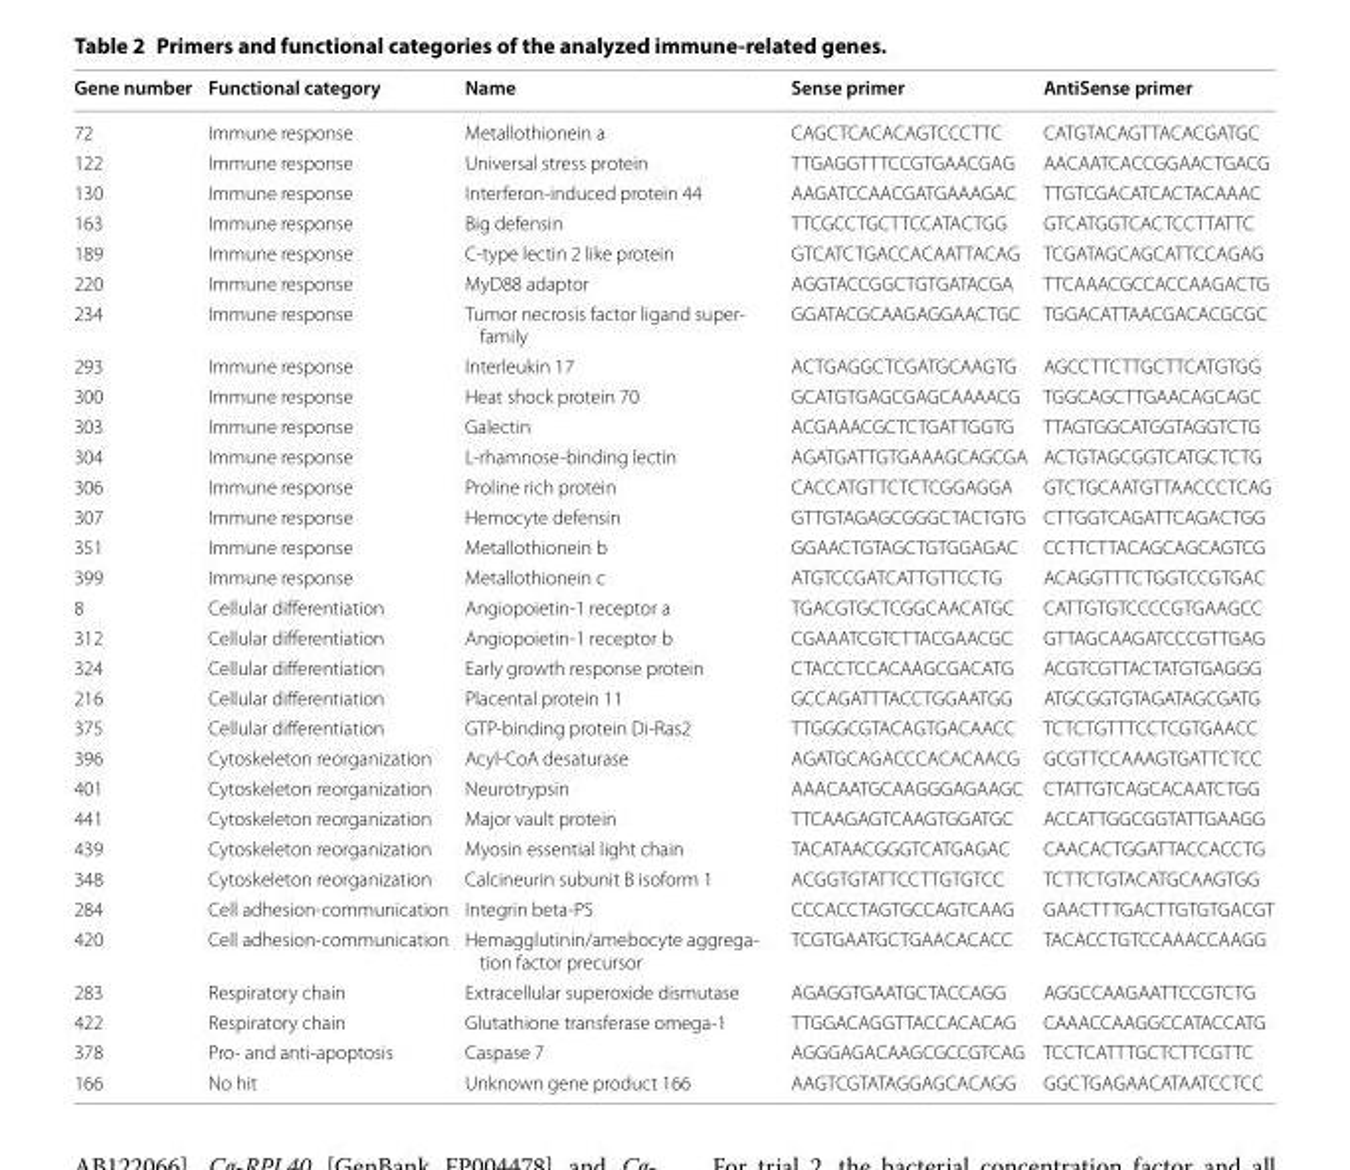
<table><thead><tr><td>Gene number</td><td>Functional category</td><td>Name</td><td>Sense primer</td><td>AntiSense primer</td></tr></thead><tbody><tr><td>72</td><td>Immune response</td><td>Metallothionein a</td><td>CAGCTCACACAGTCCCTTC</td><td>CATGTACAGTTACACGATGC</td></tr><tr><td>122</td><td>Immune response</td><td>Universal stress protein</td><td>TTGAGGTTTCCGTGAACGAG</td><td>AACAATCACCGGAACTGACG</td></tr><tr><td>130</td><td>Immune response</td><td>Interferon‑induced protein 44</td><td>AAGATCCAACGATGAAAGAC</td><td>TTGTCGACATCACTACAAAC</td></tr><tr><td>163</td><td>Immune response</td><td>Big defensin</td><td>TTCGCCTGCTTCCATACTGG</td><td>GTCATGGTCACTCCTTATTC</td></tr><tr><td>189</td><td>Immune response</td><td>C‑type lectin 2 like protein</td><td>GTCATCTGACCACAATTACAG</td><td>TCGATAGCAGCATTCCAGAG</td></tr><tr><td>220</td><td>Immune response</td><td>MyD88 adaptor</td><td>AGGTACCGGCTGTGATACGA</td><td>TTCAAACGCCACCAAGACTG</td></tr><tr><td>234</td><td>Immune response</td><td>Tumor necrosis factor ligand super‑ family</td><td>GGATACGCAAGAGGAACTGC</td><td>TGGACATTAACGACACGCGC</td></tr><tr><td>293</td><td>Immune response</td><td>Interleukin 17</td><td>ACTGAGGCTCGATGCAAGTG</td><td>AGCCTTCTTGCTTCATGTGG</td></tr><tr><td>300</td><td>Immune response</td><td>Heat shock protein 70</td><td>GCATGTGAGCGAGCAAAACG</td><td>TGGCAGCTTGAACAGCAGC</td></tr><tr><td>303</td><td>Immune response</td><td>Galectin</td><td>ACGAAACGCTCTGATTGGTG</td><td>TTAGTGGCATGGTAGGTCTG</td></tr><tr><td>304</td><td>Immune response</td><td>L‑rhamnose‑binding lectin</td><td>AGATGATTGTGAAAGCAGCGA</td><td>ACTGTAGCGGTCATGCTCTG</td></tr><tr><td>306</td><td>Immune response</td><td>Proline rich protein</td><td>CACCATGTTCTCTCGGAGGA</td><td>GTCTGCAATGTTAACCCTCAG</td></tr><tr><td>307</td><td>Immune response</td><td>Hemocyte defensin</td><td>GTTGTAGAGCGGGCTACTGTG</td><td>CTTGGTCAGATTCAGACTGG</td></tr><tr><td>351</td><td>Immune response</td><td>Metallothionein b</td><td>GGAACTGTAGCTGTGGAGAC</td><td>CCTTCTTACAGCAGCAGTCG</td></tr><tr><td>399</td><td>Immune response</td><td>Metallothionein c</td><td>ATGTCCGATCATTGTTCCTG</td><td>ACAGGTTTCTGGTCCGTGAC</td></tr><tr><td>8</td><td>Cellular differentiation</td><td>Angiopoietin‑1 receptor a</td><td>TGACGTGCTCGGCAACATGC</td><td>CATTGTGTCCCCGTGAAGCC</td></tr><tr><td>312</td><td>Cellular differentiation</td><td>Angiopoietin‑1 receptor b</td><td>CGAAATCGTCTTACGAACGC</td><td>GTTAGCAAGATCCCGTTGAG</td></tr><tr><td>324</td><td>Cellular differentiation</td><td>Early growth response protein</td><td>CTACCTCCACAAGCGACATG</td><td>ACGTCGTTACTATGTGAGGG</td></tr><tr><td>216</td><td>Cellular differentiation</td><td>Placental protein 11</td><td>GCCAGATTTACCTGGAATGG</td><td>ATGCGGTGTAGATAGCGATG</td></tr><tr><td>375</td><td>Cellular differentiation</td><td>GTP‑binding protein Di‑Ras2</td><td>TTGGGCGTACAGTGACAACC</td><td>TCTCTGTTTCCTCGTGAACC</td></tr><tr><td>396</td><td>Cytoskeleton reorganization</td><td>Acyl‑CoA desaturase</td><td>AGATGCAGACCCACACAACG</td><td>GCGTTCCAAAGTGATTCTCC</td></tr><tr><td>401</td><td>Cytoskeleton reorganization</td><td>Neurotrypsin</td><td>AAACAATGCAAGGGAGAAGC</td><td>CTATTGTCAGCACAATCTGG</td></tr><tr><td>441</td><td>Cytoskeleton reorganization</td><td>Major vault protein</td><td>TTCAAGAGTCAAGTGGATGC</td><td>ACCATTGGCGGTATTGAAGG</td></tr><tr><td>439</td><td>Cytoskeleton reorganization</td><td>Myosin essential light chain</td><td>TACATAACGGGTCATGAGAC</td><td>CAACACTGGATTACCACCTG</td></tr><tr><td>348</td><td>Cytoskeleton reorganization</td><td>Calcineurin subunit B isoform 1</td><td>ACGGTGTATTCCTTGTGTCC</td><td>TCTTCTGTACATGCAAGTGG</td></tr><tr><td>284</td><td>Cell adhesion‑communication</td><td>Integrin beta‑PS</td><td>CCCACCTAGTGCCAGTCAAG</td><td>GAACTTTGACTTGTGTGACGT</td></tr><tr><td>420</td><td>Cell adhesion‑communication</td><td>Hemagglutinin/amebocyte aggrega‑ tion factor precursor</td><td>TCGTGAATGCTGAACACACC</td><td>TACACCTGTCCAAACCAAGG</td></tr><tr><td>283</td><td>Respiratory chain</td><td>Extracellular superoxide dismutase</td><td>AGAGGTGAATGCTACCAGG</td><td>AGGCCAAGAATTCCGTCTG</td></tr><tr><td>422</td><td>Respiratory chain</td><td>Glutathione transferase omega‑1</td><td>TTGGACAGGTTACCACACAG</td><td>CAAACCAAGGCCATACCATG</td></tr><tr><td>378</td><td>Pro‑ and anti‑apoptosis</td><td>Caspase 7</td><td>AGGGAGACAAGCGCCGTCAG</td><td>TCCTCATTTGCTCTTCGTTC</td></tr><tr><td>166</td><td>No hit</td><td>Unknown gene product 166</td><td>AAGTCGTATAGGAGCACAGG</td><td>GGCTGAGAACATAATCCTCC</td></tr></tbody></table>